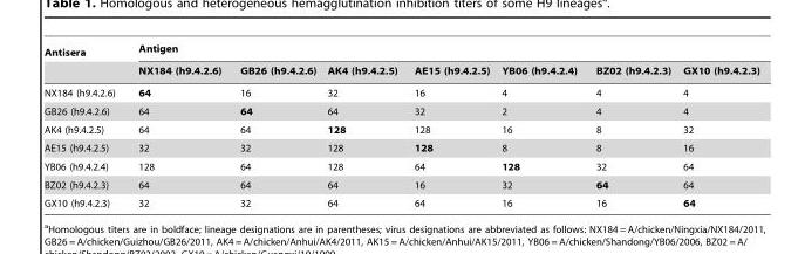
<table><thead><tr><td rowspan="2">Antisera</td><td colspan="7">Antigen</td></tr><tr><td>NX184 (h9.4.2.6)</td><td>GB26 (h9.4.2.6)</td><td>AK4 (h9.4.2.5)</td><td>AE15 (h9.4.2.5)</td><td>YB06 (h9.4.2.4)</td><td>BZ02 (h9.4.2.3)</td><td>GX10 (h9.4.2.3)</td></tr></thead><tbody><tr><td>NX184 (h9.4.2.6)</td><td>64</td><td>16</td><td>32</td><td>16</td><td>4</td><td>4</td><td>4</td></tr><tr><td>GB26 (h9.4.2.6)</td><td>64</td><td>64</td><td>64</td><td>32</td><td>2</td><td>4</td><td>4</td></tr><tr><td>AK4 (h9.4.2.5)</td><td>64</td><td>64</td><td>128</td><td>128</td><td>16</td><td>8</td><td>32</td></tr><tr><td>AE15 (h9.4.2.5)</td><td>32</td><td>32</td><td>128</td><td>128</td><td>8</td><td>8</td><td>16</td></tr><tr><td>YB06 (h9.4.2.4)</td><td>128</td><td>64</td><td>128</td><td>64</td><td>128</td><td>32</td><td>64</td></tr><tr><td>BZ02 (h9.4.2.3)</td><td>64</td><td>64</td><td>64</td><td>16</td><td>32</td><td>64</td><td>64</td></tr><tr><td>GX10 (h9.4.2.3)</td><td>32</td><td>32</td><td>64</td><td>64</td><td>16</td><td>16</td><td>64</td></tr></tbody></table>